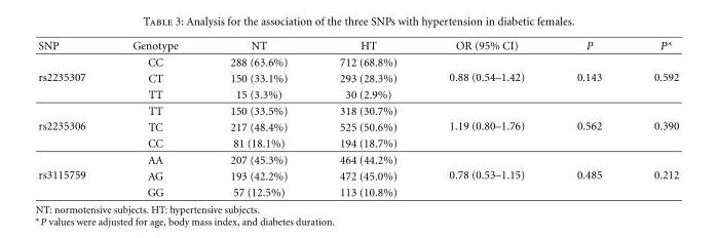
<table><thead><tr><td>SNP</td><td>Genotype</td><td>NT</td><td>HT</td><td>OR (95% CI)</td><td>P</td><td>P∗</td></tr></thead><tbody><tr><td rowspan="3">rs2235307</td><td>CC</td><td>288 (63.6%)</td><td>712 (68.8%)</td><td rowspan="3">0.88 (0.54–1.42)</td><td rowspan="3">0.143</td><td rowspan="3">0.592</td></tr><tr><td>CT</td><td>150 (33.1%)</td><td>293 (28.3%)</td></tr><tr><td>TT</td><td>15 (3.3%)</td><td>30 (2.9%)</td></tr><tr><td rowspan="3">rs2235306</td><td>TT</td><td>150 (33.5%)</td><td>318 (30.7%)</td><td rowspan="3">1.19 (0.80–1.76)</td><td rowspan="3">0.562</td><td rowspan="3">0.390</td></tr><tr><td>TC</td><td>217 (48.4%)</td><td>525 (50.6%)</td></tr><tr><td>CC</td><td>81 (18.1%)</td><td>194 (18.7%)</td></tr><tr><td rowspan="3">rs3115759</td><td>AA</td><td>207 (45.3%)</td><td>464 (44.2%)</td><td rowspan="3">0.78 (0.53–1.15)</td><td rowspan="3">0.485</td><td rowspan="3">0.212</td></tr><tr><td>AG</td><td>193 (42.2%)</td><td>472 (45.0%)</td></tr><tr><td>GG</td><td>57 (12.5%)</td><td>113 (10.8%)</td></tr></tbody></table>